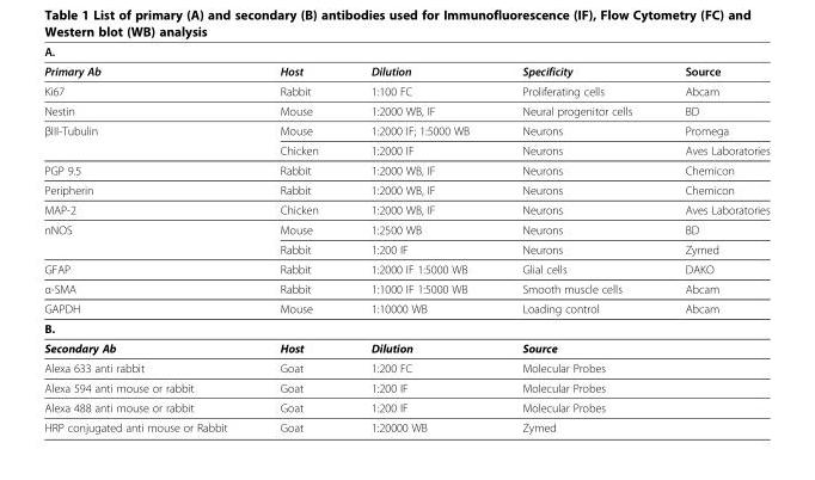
<table><thead><tr><td colspan="5">A.</td></tr><tr><td>Primary Ab</td><td>Host</td><td>Dilution</td><td>Specificity</td><td>Source</td></tr></thead><tbody><tr><td>Ki67</td><td>Rabbit</td><td>1:100 FC</td><td>Proliferating cells</td><td>Abcam</td></tr><tr><td>Nestin</td><td>Mouse</td><td>1:2000 WB, IF</td><td>Neural progenitor cells</td><td>BD</td></tr><tr><td rowspan="2">βIII-Tubulin</td><td>Mouse</td><td>1:2000 IF; 1:5000 WB</td><td>Neurons</td><td>Promega</td></tr><tr><td>Chicken</td><td>1:2000 IF</td><td>Neurons</td><td>Aves Laboratories</td></tr><tr><td>PGP 9.5</td><td>Rabbit</td><td>1:2000 WB, IF</td><td>Neurons</td><td>Chemicon</td></tr><tr><td>Peripherin</td><td>Rabbit</td><td>1:2000 WB, IF</td><td>Neurons</td><td>Chemicon</td></tr><tr><td>MAP-2</td><td>Chicken</td><td>1:2000 WB, IF</td><td>Neurons</td><td>Aves Laboratories</td></tr><tr><td rowspan="2">nNOS</td><td>Mouse</td><td>1:2500 WB</td><td>Neurons</td><td>BD</td></tr><tr><td>Rabbit</td><td>1:200 IF</td><td>Neurons</td><td>Zymed</td></tr><tr><td>GFAP</td><td>Rabbit</td><td>1:2000 IF 1:5000 WB</td><td>Glial cells</td><td>DAKO</td></tr><tr><td>α-SMA</td><td>Rabbit</td><td>1:1000 IF 1:5000 WB</td><td>Smooth muscle cells</td><td>Abcam</td></tr><tr><td>GAPDH</td><td>Mouse</td><td>1:10000 WB</td><td>Loading control</td><td>Abcam</td></tr><tr><td colspan="5">B.</td></tr><tr><td>Secondary Ab</td><td>Host</td><td>Dilution</td><td colspan="2">Source</td></tr><tr><td>Alexa 633 anti rabbit</td><td>Goat</td><td>1:200 FC</td><td colspan="2">Molecular Probes</td></tr><tr><td>Alexa 594 anti mouse or rabbit</td><td>Goat</td><td>1:200 IF</td><td colspan="2">Molecular Probes</td></tr><tr><td>Alexa 488 anti mouse or rabbit</td><td>Goat</td><td>1:200 IF</td><td colspan="2">Molecular Probes</td></tr><tr><td>HRP conjugated anti mouse or Rabbit</td><td>Goat</td><td>1:20000 WB</td><td colspan="2">Zymed</td></tr></tbody></table>